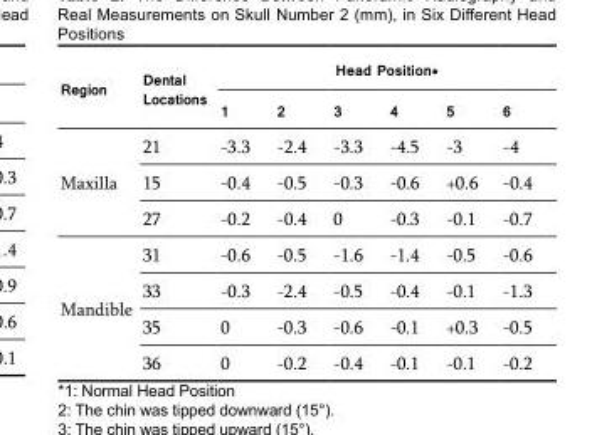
<table><thead><tr><td rowspan="2">Region</td><td rowspan="2">Dental Locations</td><td colspan="6">Head Position*</td></tr><tr><td>1</td><td>2</td><td>3</td><td>4</td><td>5</td><td>6</td></tr></thead><tbody><tr><td rowspan="3">Maxilla</td><td>21</td><td>-3.3</td><td>-2.4</td><td>-3.3</td><td>-4.5</td><td>-3</td><td>-4</td></tr><tr><td>15</td><td>-0.4</td><td>-0.5</td><td>-0.3</td><td>-0.6</td><td>+0.6</td><td>-0.4</td></tr><tr><td>27</td><td>-0.2</td><td>-0.4</td><td>0</td><td>-0.3</td><td>-0.1</td><td>-0.7</td></tr><tr><td rowspan="4">Mandible</td><td>31</td><td>-0.6</td><td>-0.5</td><td>-1.6</td><td>-1.4</td><td>-0.5</td><td>-0.6</td></tr><tr><td>33</td><td>-0.3</td><td>-2.4</td><td>-0.5</td><td>-0.4</td><td>-0.1</td><td>-1.3</td></tr><tr><td>35</td><td>0</td><td>-0.3</td><td>-0.6</td><td>-0.1</td><td>+0.3</td><td>-0.5</td></tr><tr><td>36</td><td>0</td><td>-0.2</td><td>-0.4</td><td>-0.1</td><td>-0.1</td><td>-0.2</td></tr></tbody></table>